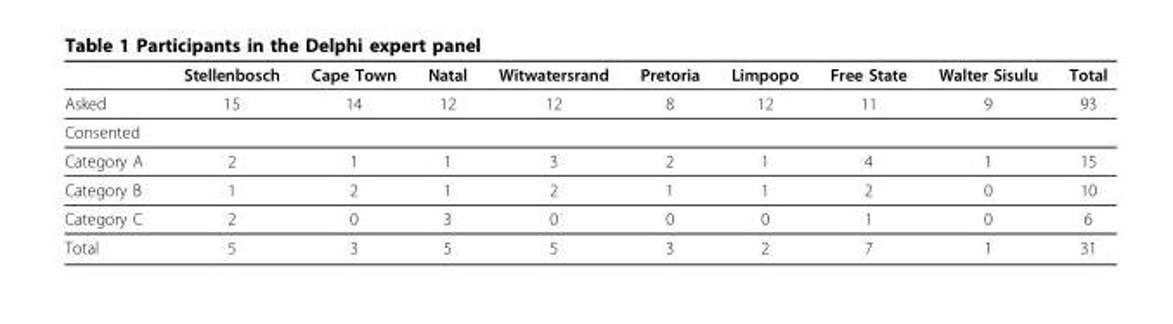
<table><thead><tr><td></td><td>Stellenbosch</td><td>Cape Town</td><td>Natal</td><td>Witwatersrand</td><td>Pretoria</td><td>Limpopo</td><td>Free State</td><td>Walter Sisulu</td><td>Total</td></tr></thead><tbody><tr><td>Asked</td><td>15</td><td>14</td><td>12</td><td>12</td><td>8</td><td>12</td><td>11</td><td>9</td><td>93</td></tr><tr><td colspan="10">Consented</td></tr><tr><td>Category A</td><td>2</td><td>1</td><td>1</td><td>3</td><td>2</td><td>1</td><td>4</td><td>1</td><td>15</td></tr><tr><td>Category B</td><td>1</td><td>2</td><td>1</td><td>2</td><td>1</td><td>1</td><td>2</td><td>0</td><td>10</td></tr><tr><td>Category C</td><td>2</td><td>0</td><td>3</td><td>0</td><td>0</td><td>0</td><td>1</td><td>0</td><td>6</td></tr><tr><td>Total</td><td>5</td><td>3</td><td>5</td><td>5</td><td>3</td><td>2</td><td>7</td><td>1</td><td>31</td></tr></tbody></table>